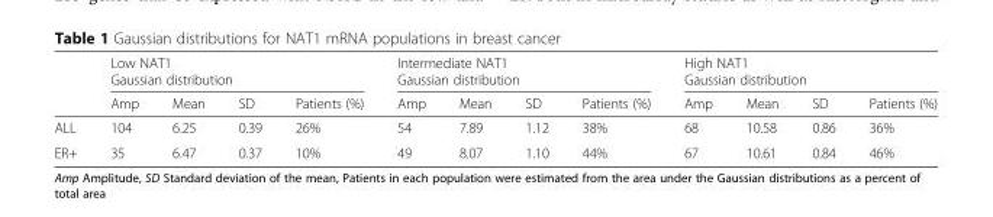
<table><thead><tr><td rowspan="2"></td><td colspan="4">Low NAT1 Gaussian distribution</td><td colspan="4">Intermediate NAT1 Gaussian distribution</td><td colspan="4">High NAT1 Gaussian distribution</td></tr><tr><td>Amp</td><td>Mean</td><td>SD</td><td>Patients (%)</td><td>Amp</td><td>Mean</td><td>SD</td><td>Patients (%)</td><td>Amp</td><td>Mean</td><td>SD</td><td>Patients (%)</td></tr></thead><tbody><tr><td>ALL</td><td>104</td><td>6.25</td><td>0.39</td><td>26%</td><td>54</td><td>7.89</td><td>1.12</td><td>38%</td><td>68</td><td>10.58</td><td>0.86</td><td>36%</td></tr><tr><td>ER+</td><td>35</td><td>6.47</td><td>0.37</td><td>10%</td><td>49</td><td>8.07</td><td>1.10</td><td>44%</td><td>67</td><td>10.61</td><td>0.84</td><td>46%</td></tr></tbody></table>